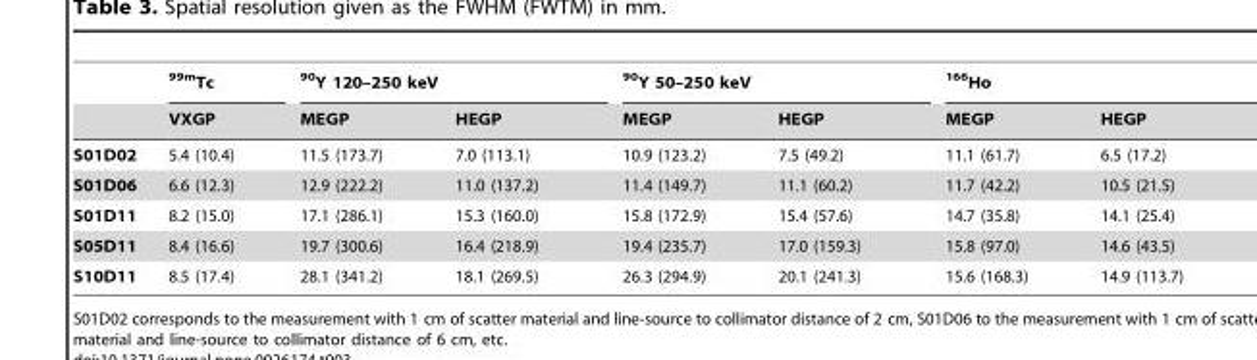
<table><thead><tr><td rowspan="2"></td><td rowspan="2"><sup>99m</sup>Tc VXGP</td><td colspan="2"><sup>90</sup>Y 120–250 keV</td><td colspan="2"><sup>90</sup>Y 50–250 keV</td><td colspan="2"><sup>166</sup>Ho</td></tr><tr><td>MEGP</td><td>HEGP</td><td>MEGP</td><td>HEGP</td><td>MEGP</td><td>HEGP</td></tr></thead><tbody><tr><td>S01D02</td><td>5.4 (10.4)</td><td>11.5 (173.7)</td><td>7.0 (113.1)</td><td>10.9 (123.2)</td><td>7.5 (49.2)</td><td>11.1 (61.7)</td><td>6.5 (17.2)</td></tr><tr><td>S01D06</td><td>6.6 (12.3)</td><td>12.9 (222.2)</td><td>11.0 (137.2)</td><td>11.4 (149.7)</td><td>11.1 (60.2)</td><td>11.7 (42.2)</td><td>10.5 (21.5)</td></tr><tr><td>S01D11</td><td>8.2 (15.0)</td><td>17.1 (286.1)</td><td>15.3 (160.0)</td><td>15.8 (172.9)</td><td>15.4 (57.6)</td><td>14.7 (35.8)</td><td>14.1 (25.4)</td></tr><tr><td>S05D11</td><td>8.4 (16.6)</td><td>19.7 (300.6)</td><td>16.4 (218.9)</td><td>19.4 (235.7)</td><td>17.0 (159.3)</td><td>15.8 (97.0)</td><td>14.6 (43.5)</td></tr><tr><td>S10D11</td><td>8.5 (17.4)</td><td>28.1 (341.2)</td><td>18.1 (269.5)</td><td>26.3 (294.9)</td><td>20.1 (241.3)</td><td>15.6 (168.3)</td><td>14.9 (113.7)</td></tr></tbody></table>